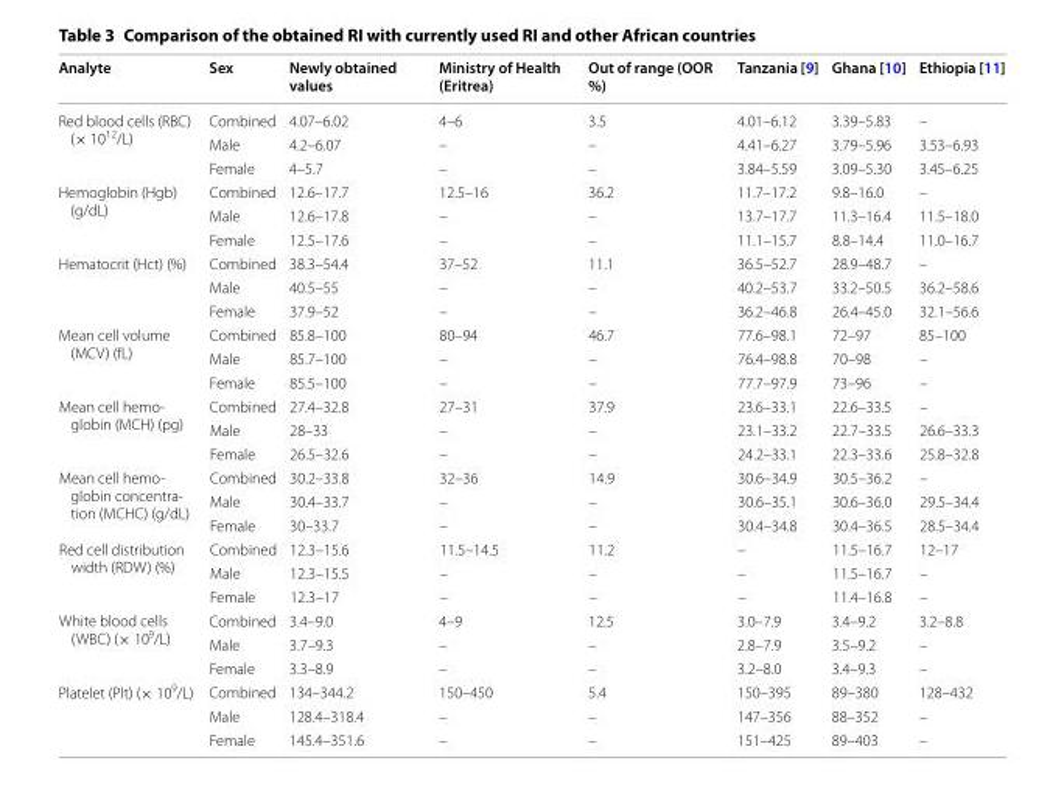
<table><thead><tr><td>Analyte</td><td>Sex</td><td>Newly obtained values</td><td>Ministry of Health (Eritrea)</td><td>Out of range (OOR %)</td><td>Tanzania [9]</td><td>Ghana [10]</td><td>Ethiopia [11]</td></tr></thead><tbody><tr><td rowspan="3">Red blood cells (RBC) (× 10<sup>12</sup>/L)</td><td>Combined</td><td>4.07–6.02</td><td>4–6</td><td>3.5</td><td>4.01–6.12</td><td>3.39–5.83</td><td>–</td></tr><tr><td>Male</td><td>4.2–6.07</td><td>–</td><td>–</td><td>4.41–6.27</td><td>3.79–5.96</td><td>3.53–6.93</td></tr><tr><td>Female</td><td>4–5.7</td><td>–</td><td>–</td><td>3.84–5.59</td><td>3.09–5.30</td><td>3.45–6.25</td></tr><tr><td rowspan="3">Hemoglobin (Hgb) (g/dL)</td><td>Combined</td><td>12.6–17.7</td><td>12.5–16</td><td>36.2</td><td>11.7–17.2</td><td>9.8–16.0</td><td>–</td></tr><tr><td>Male</td><td>12.6–17.8</td><td>–</td><td>–</td><td>13.7–17.7</td><td>11.3–16.4</td><td>11.5–18.0</td></tr><tr><td>Female</td><td>12.5–17.6</td><td>–</td><td>–</td><td>11.1–15.7</td><td>8.8–14.4</td><td>11.0–16.7</td></tr><tr><td rowspan="3">Hematocrit (Hct) (%)</td><td>Combined</td><td>38.3–54.4</td><td>37–52</td><td>11.1</td><td>36.5–52.7</td><td>28.9–48.7</td><td>–</td></tr><tr><td>Male</td><td>40.5–55</td><td>–</td><td>–</td><td>40.2–53.7</td><td>33.2–50.5</td><td>36.2–58.6</td></tr><tr><td>Female</td><td>37.9–52</td><td>–</td><td>–</td><td>36.2–46.8</td><td>26.4–45.0</td><td>32.1–56.6</td></tr><tr><td rowspan="3">Mean cell volume (MCV) (fL)</td><td>Combined</td><td>85.8–100</td><td>80–94</td><td>46.7</td><td>77.6–98.1</td><td>72–97</td><td>85–100</td></tr><tr><td>Male</td><td>85.7–100</td><td>–</td><td>–</td><td>76.4–98.8</td><td>70–98</td><td>–</td></tr><tr><td>Female</td><td>85.5–100</td><td>–</td><td>–</td><td>77.7–97.9</td><td>73–96</td><td>–</td></tr><tr><td rowspan="3">Mean cell hemo- globin (MCH) (pg)</td><td>Combined</td><td>27.4–32.8</td><td>27–31</td><td>37.9</td><td>23.6–33.1</td><td>22.6–33.5</td><td>–</td></tr><tr><td>Male</td><td>28–33</td><td>–</td><td>–</td><td>23.1–33.2</td><td>22.7–33.5</td><td>26.6–33.3</td></tr><tr><td>Female</td><td>26.5–32.6</td><td>–</td><td>–</td><td>24.2–33.1</td><td>22.3–33.6</td><td>25.8–32.8</td></tr><tr><td rowspan="3">Mean cell hemo- globin concentra- tion (MCHC) (g/dL)</td><td>Combined</td><td>30.2–33.8</td><td>32–36</td><td>14.9</td><td>30.6–34.9</td><td>30.5–36.2</td><td>–</td></tr><tr><td>Male</td><td>30.4–33.7</td><td>–</td><td>–</td><td>30.6–35.1</td><td>30.6–36.0</td><td>29.5–34.4</td></tr><tr><td>Female</td><td>30–33.7</td><td>–</td><td>–</td><td>30.4–34.8</td><td>30.4–36.5</td><td>28.5–34.4</td></tr><tr><td rowspan="3">Red cell distribution width (RDW) (%)</td><td>Combined</td><td>12.3–15.6</td><td>11.5–14.5</td><td>11.2</td><td>–</td><td>11.5–16.7</td><td>12–17</td></tr><tr><td>Male</td><td>12.3–15.5</td><td>–</td><td>–</td><td>–</td><td>11.5–16.7</td><td>–</td></tr><tr><td>Female</td><td>12.3–17</td><td>–</td><td>–</td><td>–</td><td>11.4–16.8</td><td>–</td></tr><tr><td rowspan="3">White blood cells (WBC) (× 10<sup>9</sup>/L)</td><td>Combined</td><td>3.4–9.0</td><td>4–9</td><td>12.5</td><td>3.0–7.9</td><td>3.4–9.2</td><td>3.2–8.8</td></tr><tr><td>Male</td><td>3.7–9.3</td><td>–</td><td>–</td><td>2.8–7.9</td><td>3.5–9.2</td><td>–</td></tr><tr><td>Female</td><td>3.3–8.9</td><td>–</td><td>–</td><td>3.2–8.0</td><td>3.4–9.3</td><td>–</td></tr><tr><td rowspan="3">Platelet (Plt) (× 10<sup>9</sup>/L)</td><td>Combined</td><td>134–344.2</td><td>150–450</td><td>5.4</td><td>150–395</td><td>89–380</td><td>128–432</td></tr><tr><td>Male</td><td>128.4–318.4</td><td>–</td><td>–</td><td>147–356</td><td>88–352</td><td>–</td></tr><tr><td>Female</td><td>145.4–351.6</td><td>–</td><td>–</td><td>151–425</td><td>89–403</td><td>–</td></tr></tbody></table>